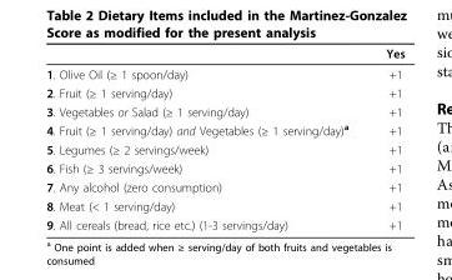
<table><thead><tr><td></td><td>Yes</td></tr></thead><tbody><tr><td>1. Olive Oil (≥ 1 spoon/day)</td><td>+1</td></tr><tr><td>2. Fruit (≥ 1 serving/day)</td><td>+1</td></tr><tr><td>3. Vegetables or Salad (≥ 1 serving/day)</td><td>+1</td></tr><tr><td>4. Fruit (≥ 1 serving/day) and Vegetables (≥ 1 serving/day)<sup>a</sup></td><td>+1</td></tr><tr><td>5. Legumes (≥ 2 servings/week)</td><td>+1</td></tr><tr><td>6. Fish (≥ 3 servings/week)</td><td>+1</td></tr><tr><td>7. Any alcohol (zero consumption)</td><td>+1</td></tr><tr><td>8. Meat (&lt; 1 serving/day)</td><td>+1</td></tr><tr><td>9. All cereals (bread, rice etc.) (1-3 servings/day)</td><td>+1</td></tr></tbody></table>